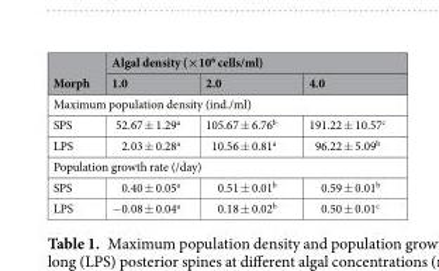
<table><thead><tr><td rowspan="2">Morph</td><td colspan="3">Algal density (×10<sup>6</sup> cells/ml)</td></tr><tr><td>1.0</td><td>2.0</td><td>4.0</td></tr></thead><tbody><tr><td colspan="4">Maximum population density (ind./ml)</td></tr><tr><td>SPS</td><td>52.67 ± 1.29<sup>a</sup></td><td>105.67 ± 6.76<sup>b</sup></td><td>191.22 ± 10.57<sup>c</sup></td></tr><tr><td>LPS</td><td>2.03 ± 0.28<sup>a</sup></td><td>10.56 ± 0.81<sup>a</sup></td><td>96.22 ± 5.09<sup>b</sup></td></tr><tr><td colspan="4">Population growth rate (/day)</td></tr><tr><td>SPS</td><td>0.40 ± 0.05<sup>a</sup></td><td>0.51 ± 0.01<sup>b</sup></td><td>0.59 ± 0.01<sup>b</sup></td></tr><tr><td>LPS</td><td>−0.08 ± 0.04<sup>a</sup></td><td>0.18 ± 0.02<sup>b</sup></td><td>0.50 ± 0.01<sup>c</sup></td></tr></tbody></table>